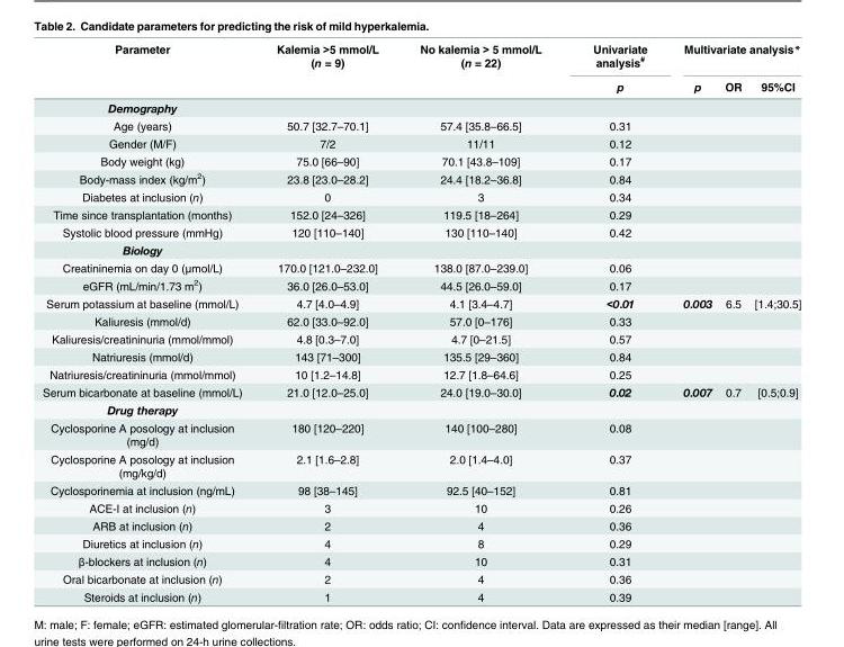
<table><thead><tr><td rowspan="2">Parameter</td><td rowspan="2">Kalemia &gt;5 mmol/L (n = 9)</td><td rowspan="2">No kalemia &gt; 5 mmol/L (n = 22)</td><td rowspan="2">Univariate analysis<sup>#</sup> p</td><td colspan="3">Multivariate analysis*</td></tr><tr><td>p</td><td>OR</td><td>95%CI</td></tr></thead><tbody><tr><td colspan="7">Demography</td></tr><tr><td>Age (years)</td><td>50.7 [32.7–70.1]</td><td>57.4 [35.8–66.5]</td><td>0.31</td><td></td><td></td><td></td></tr><tr><td>Gender (M/F)</td><td>7/2</td><td>11/11</td><td>0.12</td><td></td><td></td><td></td></tr><tr><td>Body weight (kg)</td><td>75.0 [66–90]</td><td>70.1 [43.8–109]</td><td>0.17</td><td></td><td></td><td></td></tr><tr><td>Body-mass index (kg/m<sup>2</sup>)</td><td>23.8 [23.0–28.2]</td><td>24.4 [18.2–36.8]</td><td>0.84</td><td></td><td></td><td></td></tr><tr><td>Diabetes at inclusion (n)</td><td>0</td><td>3</td><td>0.34</td><td></td><td></td><td></td></tr><tr><td>Time since transplantation (months)</td><td>152.0 [24–326]</td><td>119.5 [18–264]</td><td>0.29</td><td></td><td></td><td></td></tr><tr><td>Systolic blood pressure (mmHg)</td><td>120 [110–140]</td><td>130 [110–140]</td><td>0.42</td><td></td><td></td><td></td></tr><tr><td colspan="7">Biology</td></tr><tr><td>Creatininemia on day 0 (μmol/L)</td><td>170.0 [121.0–232.0]</td><td>138.0 [87.0–239.0]</td><td>0.06</td><td></td><td></td><td></td></tr><tr><td>eGFR (mL/min/1.73 m<sup>2</sup>)</td><td>36.0 [26.0–53.0]</td><td>44.5 [26.0–59.0]</td><td>0.17</td><td></td><td></td><td></td></tr><tr><td>Serum potassium at baseline (mmol/L)</td><td>4.7 [4.0–4.9]</td><td>4.1 [3.4–4.7]</td><td>&lt;0.01</td><td>0.003</td><td>6.5</td><td>[1.4;30.5]</td></tr><tr><td>Kaliuresis (mmol/d)</td><td>62.0 [33.0–92.0]</td><td>57.0 [0–176]</td><td>0.33</td><td></td><td></td><td></td></tr><tr><td>Kaliuresis/creatininuria (mmol/mmol)</td><td>4.8 [0.3–7.0]</td><td>4.7 [0–21.5]</td><td>0.57</td><td></td><td></td><td></td></tr><tr><td>Natriuresis (mmol/d)</td><td>143 [71–300]</td><td>135.5 [29–360]</td><td>0.84</td><td></td><td></td><td></td></tr><tr><td>Natriuresis/creatininuria (mmol/mmol)</td><td>10 [1.2–14.8]</td><td>12.7 [1.8–64.6]</td><td>0.25</td><td></td><td></td><td></td></tr><tr><td>Serum bicarbonate at baseline (mmol/L)</td><td>21.0 [12.0–25.0]</td><td>24.0 [19.0–30.0]</td><td>0.02</td><td>0.007</td><td>0.7</td><td>[0.5;0.9]</td></tr><tr><td colspan="7">Drug therapy</td></tr><tr><td>Cyclosporine A posology at inclusion (mg/d)</td><td>180 [120–220]</td><td>140 [100–280]</td><td>0.08</td><td></td><td></td><td></td></tr><tr><td>Cyclosporine A posology at inclusion (mg/kg/d)</td><td>2.1 [1.6–2.8]</td><td>2.0 [1.4–4.0]</td><td>0.37</td><td></td><td></td><td></td></tr><tr><td>Cyclosporinemia at inclusion (ng/mL)</td><td>98 [38–145]</td><td>92.5 [40–152]</td><td>0.81</td><td></td><td></td><td></td></tr><tr><td>ACE-I at inclusion (n)</td><td>3</td><td>10</td><td>0.26</td><td></td><td></td><td></td></tr><tr><td>ARB at inclusion (n)</td><td>2</td><td>4</td><td>0.36</td><td></td><td></td><td></td></tr><tr><td>Diuretics at inclusion (n)</td><td>4</td><td>8</td><td>0.29</td><td></td><td></td><td></td></tr><tr><td>β-blockers at inclusion (n)</td><td>4</td><td>10</td><td>0.31</td><td></td><td></td><td></td></tr><tr><td>Oral bicarbonate at inclusion (n)</td><td>2</td><td>4</td><td>0.36</td><td></td><td></td><td></td></tr><tr><td>Steroids at inclusion (n)</td><td>1</td><td>4</td><td>0.39</td><td></td><td></td><td></td></tr></tbody></table>